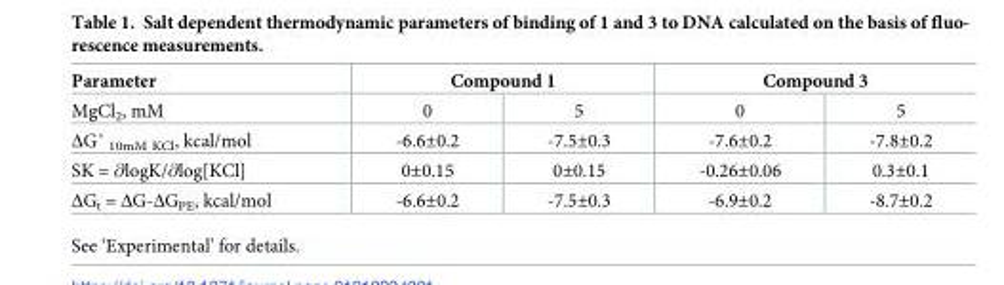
<table><thead><tr><td rowspan="2">Parameter MgCl<sub>2</sub>, mM</td><td colspan="2">Compound 1</td><td colspan="2">Compound 3</td></tr><tr><td>0</td><td>5</td><td>0</td><td>5</td></tr></thead><tbody><tr><td>ΔG˚ 10mM KCl, kcal/mol</td><td>-6.6±0.2</td><td>-7.5±0.3</td><td>-7.6±0.2</td><td>-7.8±0.2</td></tr><tr><td>SK = ∂logK/∂log[KCl]</td><td>0±0.15</td><td>0±0.15</td><td>-0.26±0.06</td><td>0.3±0.1</td></tr><tr><td>ΔG<sub>t</sub> = ΔG-ΔG<sub>PE</sub>, kcal/mol</td><td>-6.6±0.2</td><td>-7.5±0.3</td><td>-6.9±0.2</td><td>-8.7±0.2</td></tr></tbody></table>